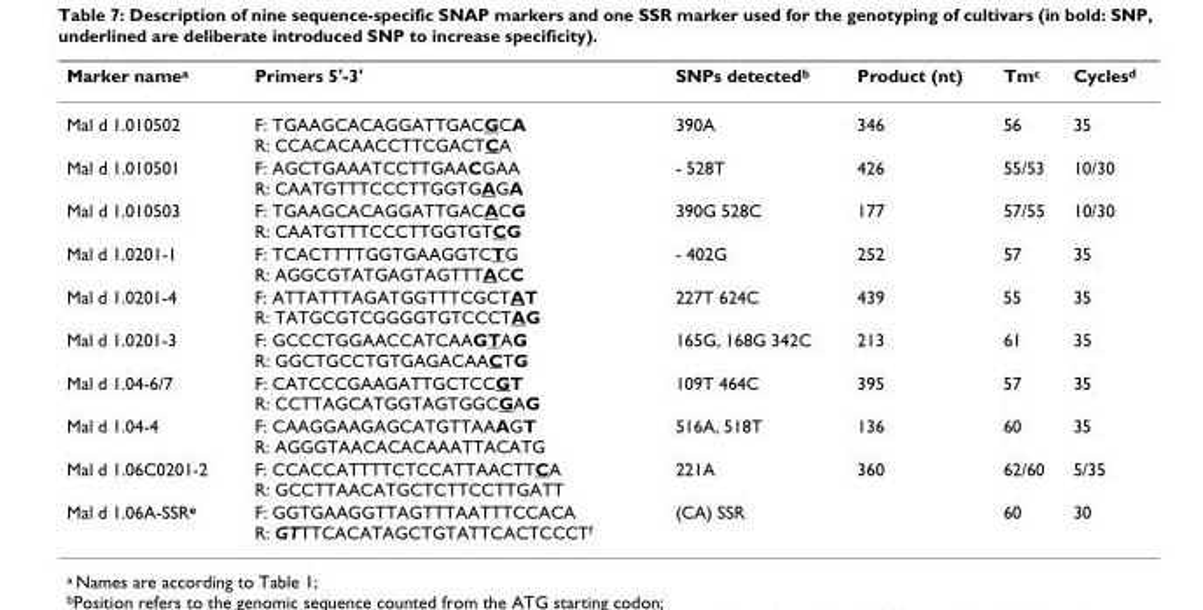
<table><thead><tr><td>Marker name<sup>a</sup></td><td>Primers 5&#x27;-3&#x27;</td><td>SNPs detected<sup>b</sup></td><td>Product (nt)</td><td>Tm<sup>c</sup></td><td>Cycles<sup>d</sup></td></tr></thead><tbody><tr><td>Mal d 1.010502</td><td>F: TGAAGCACAGGATTGACGCA R: CCACACAACCTTCGACTCA</td><td>390A</td><td>346</td><td>56</td><td>35</td></tr><tr><td>Mal d 1.010501</td><td>F: AGCTGAAATCCTTGAACGAA R: CAATGTTTCCCTTGGTGAGA</td><td>- 528T</td><td>426</td><td>55/53</td><td>10/30</td></tr><tr><td>Mal d 1.010503</td><td>F: TGAAGCACAGGATTGACACG R: CAATGTTTCCCTTGGTGTCG</td><td>390G 528C</td><td>177</td><td>57/55</td><td>10/30</td></tr><tr><td>Mal d 1.0201-1</td><td>F: TCACTTTTGGTGAAGGTCTG R: AGGCGTATGAGTAGTTTACC</td><td>- 402G</td><td>252</td><td>57</td><td>35</td></tr><tr><td>Mal d 1.0201-4</td><td>F: ATTATTTAGATGGTTTCGCTAT R: TATGCGTCGGGGTGTCCCTAG</td><td>227T 624C</td><td>439</td><td>55</td><td>35</td></tr><tr><td>Mal d 1.0201-3</td><td>F: GCCCTGGAACCATCAAGTAG R: GGCTGCCTGTGAGACAACTG</td><td>165G, 168G 342C</td><td>213</td><td>61</td><td>35</td></tr><tr><td>Mal d 1.04-6/7</td><td>F: CATCCCGAAGATTGCTCCGT R: CCTTAGCATGGTAGTGGCGAG</td><td>109T 464C</td><td>395</td><td>57</td><td>35</td></tr><tr><td>Mal d 1.04-4</td><td>F: CAAGGAAGAGCATGTTAAAGT R: AGGGTAACACACAAATTACATG</td><td>516A, 518T</td><td>136</td><td>60</td><td>35</td></tr><tr><td>Mal d 1.06C0201-2</td><td>F: CCACCATTTTCTCCATTAACTTCA R: GCCTTAACATGCTCTTCCTTGATT</td><td>221A</td><td>360</td><td>62/60</td><td>5/35</td></tr><tr><td>Mal d 1.06A-SSR<sup>e</sup></td><td>F: GGTGAAGGTTAGTTTAATTTCCACA R: GTTTCACATAGCTGTATTCACTCCCT<sup>f</sup></td><td>(CA) SSR</td><td></td><td>60</td><td>30</td></tr></tbody></table>